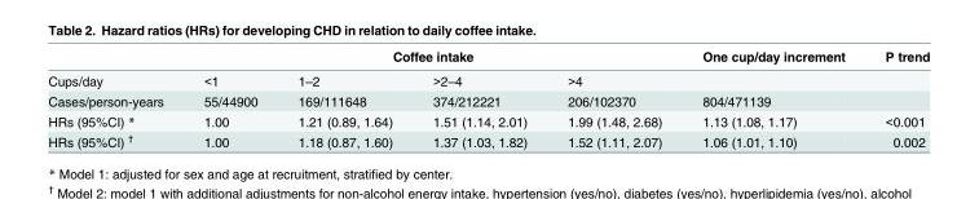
<table><thead><tr><td rowspan="2">Cups/day</td><td colspan="4">Coffee intake</td><td rowspan="2">One cup/day increment</td><td rowspan="2">P trend</td></tr><tr><td>&lt;1</td><td>1–2</td><td>&gt;2–4</td><td>&gt;4</td></tr></thead><tbody><tr><td>Cases/person-years</td><td>55/44900</td><td>169/111648</td><td>374/212221</td><td>206/102370</td><td>804/471139</td><td></td></tr><tr><td>HRs (95%CI) *</td><td>1.00</td><td>1.21 (0.89, 1.64)</td><td>1.51 (1.14, 2.01)</td><td>1.99 (1.48, 2.68)</td><td>1.13 (1.08, 1.17)</td><td>&lt;0.001</td></tr><tr><td>HRs (95%CI) <sup>†</sup></td><td>1.00</td><td>1.18 (0.87, 1.60)</td><td>1.37 (1.03, 1.82)</td><td>1.52 (1.11, 2.07)</td><td>1.06 (1.01, 1.10)</td><td>0.002</td></tr></tbody></table>